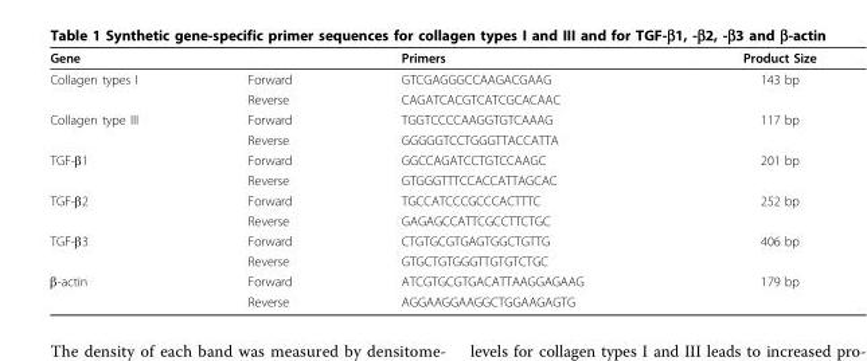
<table><thead><tr><td>Gene</td><td></td><td>Primers</td><td>Product Size</td></tr></thead><tbody><tr><td rowspan="2">Collagen types I</td><td>Forward</td><td>GTCGAGGGCCAAGACGAAG</td><td>143 bp</td></tr><tr><td>Reverse</td><td>CAGATCACGTCATCGCACAAC</td><td></td></tr><tr><td rowspan="2">Collagen type III</td><td>Forward</td><td>TGGTCCCCAAGGTGTCAAAG</td><td>117 bp</td></tr><tr><td>Reverse</td><td>GGGGGTCCTGGGTTACCATTA</td><td></td></tr><tr><td rowspan="2">TGF-β1</td><td>Forward</td><td>GGCCAGATCCTGTCCAAGC</td><td>201 bp</td></tr><tr><td>Reverse</td><td>GTGGGTTTCCACCATTAGCAC</td><td></td></tr><tr><td rowspan="2">TGF-β2</td><td>Forward</td><td>TGCCATCCCGCCCACTTTC</td><td>252 bp</td></tr><tr><td>Reverse</td><td>GAGAGCCATTCGCCTTCTGC</td><td></td></tr><tr><td rowspan="2">TGF-β3</td><td>Forward</td><td>CTGTGCGTGAGTGGCTGTTG</td><td>406 bp</td></tr><tr><td>Reverse</td><td>GTGCTGTGGGTTGTGTCTGC</td><td></td></tr><tr><td rowspan="2">β-actin</td><td>Forward</td><td>ATCGTGCGTGACATTAAGGAGAAG</td><td>179 bp</td></tr><tr><td>Reverse</td><td>AGGAAGGAAGGCTGGAAGAGTG</td><td></td></tr></tbody></table>